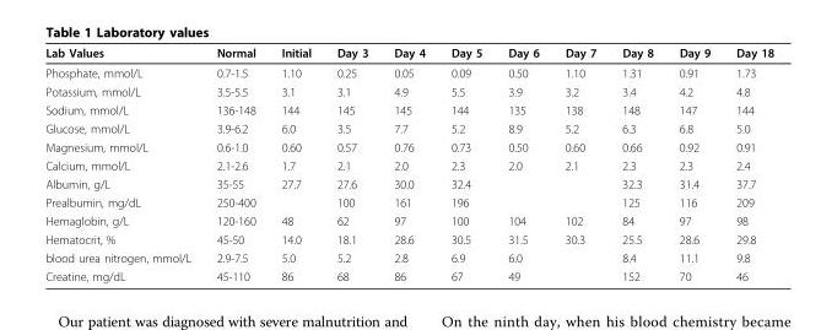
<table><thead><tr><td>Lab Values</td><td>Normal</td><td>Initial</td><td>Day 3</td><td>Day 4</td><td>Day 5</td><td>Day 6</td><td>Day 7</td><td>Day 8</td><td>Day 9</td><td>Day 18</td></tr></thead><tbody><tr><td>Phosphate, mmol/L</td><td>0.7-1.5</td><td>1.10</td><td>0.25</td><td>0.05</td><td>0.09</td><td>0.50</td><td>1.10</td><td>1.31</td><td>0.91</td><td>1.73</td></tr><tr><td>Potassium, mmol/L</td><td>3.5-5.5</td><td>3.1</td><td>3.1</td><td>4.9</td><td>5.5</td><td>3.9</td><td>3.2</td><td>3.4</td><td>4.2</td><td>4.8</td></tr><tr><td>Sodium, mmol/L</td><td>136-148</td><td>144</td><td>145</td><td>145</td><td>144</td><td>135</td><td>138</td><td>148</td><td>147</td><td>144</td></tr><tr><td>Glucose, mmol/L</td><td>3.9-6.2</td><td>6.0</td><td>3.5</td><td>7.7</td><td>5.2</td><td>8.9</td><td>5.2</td><td>6.3</td><td>6.8</td><td>5.0</td></tr><tr><td>Magnesium, mmol/L</td><td>0.6-1.0</td><td>0.60</td><td>0.57</td><td>0.76</td><td>0.73</td><td>0.50</td><td>0.60</td><td>0.66</td><td>0.92</td><td>0.91</td></tr><tr><td>Calcium, mmol/L</td><td>2.1-2.6</td><td>1.7</td><td>2.1</td><td>2.0</td><td>2.3</td><td>2.0</td><td>2.1</td><td>2.3</td><td>2.3</td><td>2.4</td></tr><tr><td>Albumin, g/L</td><td>35-55</td><td>27.7</td><td>27.6</td><td>30.0</td><td>32.4</td><td></td><td></td><td>32.3</td><td>31.4</td><td>37.7</td></tr><tr><td>Prealbumin, mg/dL</td><td>250-400</td><td></td><td>100</td><td>161</td><td>196</td><td></td><td></td><td>125</td><td>116</td><td>209</td></tr><tr><td>Hemaglobin, g/L</td><td>120-160</td><td>48</td><td>62</td><td>97</td><td>100</td><td>104</td><td>102</td><td>84</td><td>97</td><td>98</td></tr><tr><td>Hematocrit, %</td><td>45-50</td><td>14.0</td><td>18.1</td><td>28.6</td><td>30.5</td><td>31.5</td><td>30.3</td><td>25.5</td><td>28.6</td><td>29.8</td></tr><tr><td>blood urea nitrogen, mmol/L</td><td>2.9-7.5</td><td>5.0</td><td>5.2</td><td>2.8</td><td>6.9</td><td>6.0</td><td></td><td>8.4</td><td>11.1</td><td>9.8</td></tr><tr><td>Creatine, mg/dL</td><td>45-110</td><td>86</td><td>68</td><td>86</td><td>67</td><td>49</td><td></td><td>152</td><td>70</td><td>46</td></tr></tbody></table>